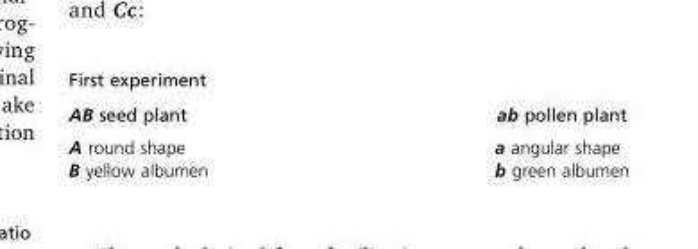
<table><thead><tr><td colspan="2">First experiment</td></tr><tr><td>AB seed plant</td><td>ab pollen plant</td></tr></thead><tbody><tr><td>A round shape</td><td>a angular shape</td></tr><tr><td>B yellow albumen</td><td>b green albumen</td></tr></tbody></table>